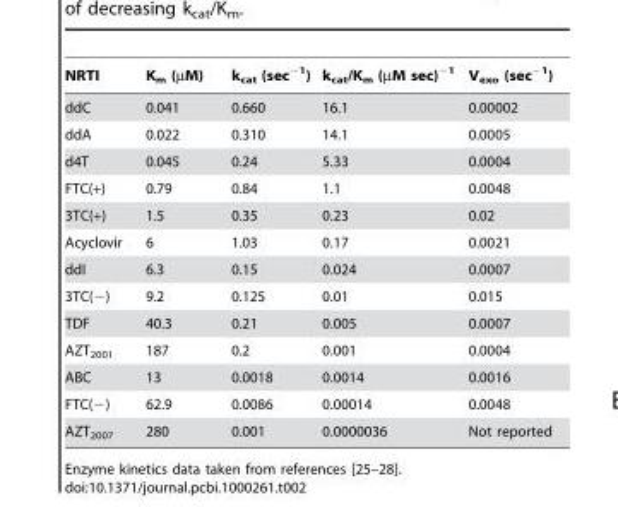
<table><thead><tr><td>NRTI</td><td>K<sub>m</sub> (µM)</td><td>k<sub>cat</sub> (sec<sup>−1</sup>)</td><td>k<sub>cat</sub>/K<sub>m</sub> (µM sec)<sup>−1</sup></td><td>V<sub>exo</sub> (sec<sup>−1</sup>)</td></tr></thead><tbody><tr><td>ddC</td><td>0.041</td><td>0.660</td><td>16.1</td><td>0.00002</td></tr><tr><td>ddA</td><td>0.022</td><td>0.310</td><td>14.1</td><td>0.0005</td></tr><tr><td>d4T</td><td>0.045</td><td>0.24</td><td>5.33</td><td>0.0004</td></tr><tr><td>FTC(+)</td><td>0.79</td><td>0.84</td><td>1.1</td><td>0.0048</td></tr><tr><td>3TC(+)</td><td>1.5</td><td>0.35</td><td>0.23</td><td>0.02</td></tr><tr><td>Acyclovir</td><td>6</td><td>1.03</td><td>0.17</td><td>0.0021</td></tr><tr><td>ddI</td><td>6.3</td><td>0.15</td><td>0.024</td><td>0.0007</td></tr><tr><td>3TC(−)</td><td>9.2</td><td>0.125</td><td>0.01</td><td>0.015</td></tr><tr><td>TDF</td><td>40.3</td><td>0.21</td><td>0.005</td><td>0.0007</td></tr><tr><td>AZT<sub>2001</sub></td><td>187</td><td>0.2</td><td>0.001</td><td>0.0004</td></tr><tr><td>ABC</td><td>13</td><td>0.0018</td><td>0.0014</td><td>0.0016</td></tr><tr><td>FTC(−)</td><td>62.9</td><td>0.0086</td><td>0.00014</td><td>0.0048</td></tr><tr><td>AZT<sub>2007</sub></td><td>280</td><td>0.001</td><td>0.0000036</td><td>Not reported</td></tr></tbody></table>